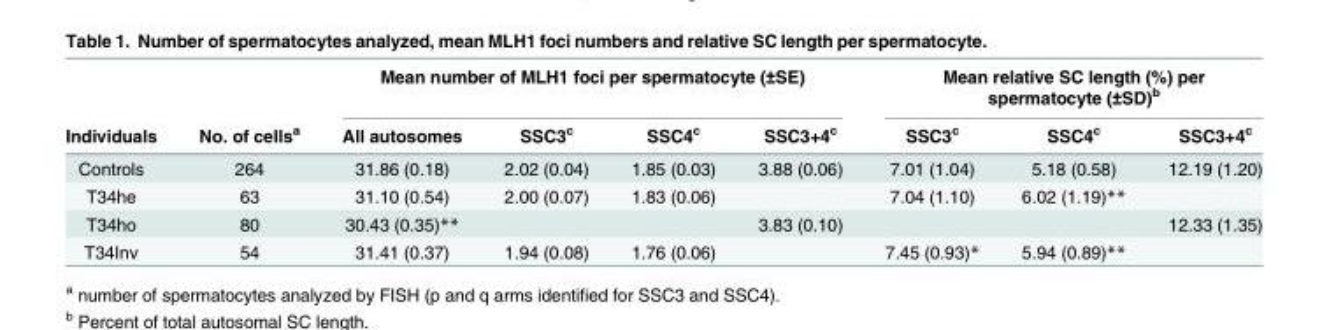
<table><thead><tr><td rowspan="2">Individuals</td><td rowspan="2">No. of cells<sup>a</sup></td><td colspan="4">Mean number of MLH1 foci per spermatocyte (±SE)</td><td colspan="3">Mean relative SC length (%) per spermatocyte (±SD)<sup>b</sup></td></tr><tr><td>All autosomes</td><td>SSC3<sup>c</sup></td><td>SSC4<sup>c</sup></td><td>SSC3+4<sup>c</sup></td><td>SSC3<sup>c</sup></td><td>SSC4<sup>c</sup></td><td>SSC3+4<sup>c</sup></td></tr></thead><tbody><tr><td>Controls</td><td>264</td><td>31.86 (0.18)</td><td>2.02 (0.04)</td><td>1.85 (0.03)</td><td>3.88 (0.06)</td><td>7.01 (1.04)</td><td>5.18 (0.58)</td><td>12.19 (1.20)</td></tr><tr><td>T34he</td><td>63</td><td>31.10 (0.54)</td><td>2.00 (0.07)</td><td>1.83 (0.06)</td><td></td><td>7.04 (1.10)</td><td>6.02 (1.19)**</td><td></td></tr><tr><td>T34ho</td><td>80</td><td>30.43 (0.35)**</td><td></td><td></td><td>3.83 (0.10)</td><td></td><td></td><td>12.33 (1.35)</td></tr><tr><td>T34Inv</td><td>54</td><td>31.41 (0.37)</td><td>1.94 (0.08)</td><td>1.76 (0.06)</td><td></td><td>7.45 (0.93)*</td><td>5.94 (0.89)**</td><td></td></tr></tbody></table>